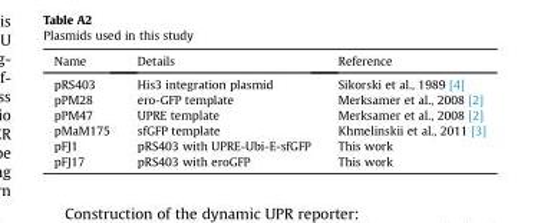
<table><thead><tr><td>Name</td><td>Details</td><td>Reference</td></tr></thead><tbody><tr><td>pRS403</td><td>His3 integration plasmid</td><td>Sikorski et al., 1989 [4]</td></tr><tr><td>pPM28</td><td>ero-GFP template</td><td>Merksamer et al., 2008 [2]</td></tr><tr><td>pPM47</td><td>UPRE template</td><td>Merksamer et al., 2008 [2]</td></tr><tr><td>pMaM175</td><td>sfGFP template</td><td>Khmelinskii et al., 2011 [3]</td></tr><tr><td>pFJ1</td><td>pRS403 with UPRE-Ubi-E-sfGFP</td><td>This work</td></tr><tr><td>pFJ17</td><td>pRS403 with eroGFP</td><td>This work</td></tr></tbody></table>